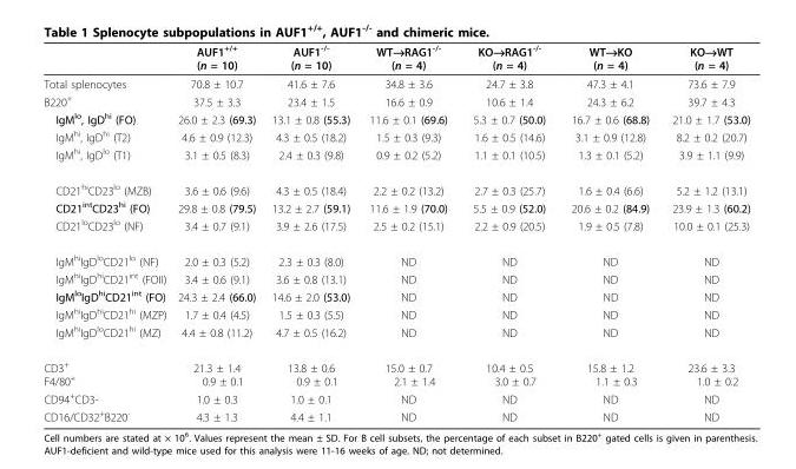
<table><thead><tr><td></td><td>AUF1<sup>+/+</sup> (n = 10)</td><td>AUF1<sup>-/-</sup> (n = 10)</td><td>WT→RAG1<sup>-/-</sup> (n = 4)</td><td>KO→RAG1<sup>-/-</sup> (n = 4)</td><td>WT→KO (n = 4)</td><td>KO→WT (n = 4)</td></tr></thead><tbody><tr><td>Total splenocytes</td><td>70.8 ± 10.7</td><td>41.6 ± 7.6</td><td>34.8 ± 3.6</td><td>24.7 ± 3.8</td><td>47.3 ± 4.1</td><td>73.6 ± 7.9</td></tr><tr><td>B220<sup>+</sup></td><td>37.5 ± 3.3</td><td>23.4 ± 1.5</td><td>16.6 ± 0.9</td><td>10.6 ± 1.4</td><td>24.3 ± 6.2</td><td>39.7 ± 4.3</td></tr><tr><td>IgM<sup>lo</sup>, IgD<sup>hi</sup> (FO)</td><td>26.0 ± 2.3 (69.3)</td><td>13.1 ± 0.8 (55.3)</td><td>11.6 ± 0.1 (69.6)</td><td>5.3 ± 0.7 (50.0)</td><td>16.7 ± 0.6 (68.8)</td><td>21.0 ± 1.7 (53.0)</td></tr><tr><td>IgM<sup>hi</sup>, IgD<sup>hi</sup> (T2)</td><td>4.6 ± 0.9 (12.3)</td><td>4.3 ± 0.5 (18.2)</td><td>1.5 ± 0.3 (9.3)</td><td>1.6 ± 0.5 (14.6)</td><td>3.1 ± 0.9 (12.8)</td><td>8.2 ± 0.2 (20.7)</td></tr><tr><td>IgM<sup>hi</sup>, IgD<sup>lo</sup> (T1)</td><td>3.1 ± 0.5 (8.3)</td><td>2.4 ± 0.3 (9.8)</td><td>0.9 ± 0.2 (5.2)</td><td>1.1 ± 0.1 (10.5)</td><td>1.3 ± 0.1 (5.2)</td><td>3.9 ± 1.1 (9.9)</td></tr><tr><td>CD21<sup>hi</sup>CD23<sup>lo</sup> (MZB)</td><td>3.6 ± 0.6 (9.6)</td><td>4.3 ± 0.5 (18.4)</td><td>2.2 ± 0.2 (13.2)</td><td>2.7 ± 0.3 (25.7)</td><td>1.6 ± 0.4 (6.6)</td><td>5.2 ± 1.2 (13.1)</td></tr><tr><td>CD21<sup>int</sup>CD23<sup>hi</sup> (FO)</td><td>29.8 ± 0.8 (79.5)</td><td>13.2 ± 2.7 (59.1)</td><td>11.6 ± 1.9 (70.0)</td><td>5.5 ± 0.9 (52.0)</td><td>20.6 ± 0.2 (84.9)</td><td>23.9 ± 1.3 (60.2)</td></tr><tr><td>CD21<sup>lo</sup>CD23<sup>lo</sup> (NF)</td><td>3.4 ± 0.7 (9.1)</td><td>3.9 ± 2.6 (17.5)</td><td>2.5 ± 0.2 (15.1)</td><td>2.2 ± 0.9 (20.5)</td><td>1.9 ± 0.5 (7.8)</td><td>10.0 ± 0.1 (25.3)</td></tr><tr><td>IgM<sup>hi</sup>IgD<sup>lo</sup>CD21<sup>lo</sup> (NF)</td><td>2.0 ± 0.3 (5.2)</td><td>2.3 ± 0.3 (8.0)</td><td>ND</td><td>ND</td><td>ND</td><td>ND</td></tr><tr><td>IgM<sup>hi</sup>IgD<sup>hi</sup>CD21<sup>int</sup> (FOII)</td><td>3.4 ± 0.6 (9.1)</td><td>3.6 ± 0.8 (13.1)</td><td>ND</td><td>ND</td><td>ND</td><td>ND</td></tr><tr><td>IgM<sup>lo</sup>IgD<sup>hi</sup>CD21<sup>int</sup> (FO)</td><td>24.3 ± 2.4 (66.0)</td><td>14.6 ± 2.0 (53.0)</td><td>ND</td><td>ND</td><td>ND</td><td>ND</td></tr><tr><td>IgM<sup>hi</sup>IgD<sup>hi</sup>CD21<sup>hi</sup> (MZP)</td><td>1.7 ± 0.4 (4.5)</td><td>1.5 ± 0.3 (5.5)</td><td>ND</td><td>ND</td><td>ND</td><td>ND</td></tr><tr><td>IgM<sup>hi</sup>IgD<sup>lo</sup>CD21<sup>hi</sup> (MZ)</td><td>4.4 ± 0.8 (11.2)</td><td>4.7 ± 0.5 (16.2)</td><td>ND</td><td>ND</td><td>ND</td><td>ND</td></tr><tr><td>CD3<sup>+</sup> F4/80<sup>+</sup></td><td>21.3 ± 1.4 0.9 ± 0.1</td><td>13.8 ± 0.6 0.9 ± 0.1</td><td>15.0 ± 0.7 2.1 ± 1.4</td><td>10.4 ± 0.5 3.0 ± 0.7</td><td>15.8 ± 1.2 1.1 ± 0.3</td><td>23.6 ± 3.3 1.0 ± 0.2</td></tr><tr><td>CD94<sup>+</sup>CD3-</td><td>1.0 ± 0.3</td><td>1.0 ± 0.1</td><td>ND</td><td>ND</td><td>ND</td><td>ND</td></tr><tr><td>CD16/CD32<sup>+</sup>B220<sup>-</sup></td><td>4.3 ± 1.3</td><td>4.4 ± 1.1</td><td>ND</td><td>ND</td><td>ND</td><td>ND</td></tr></tbody></table>